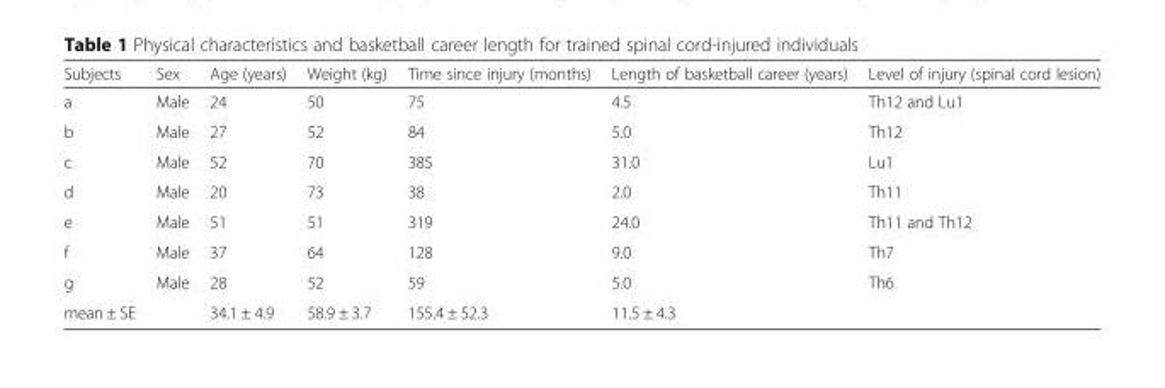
<table><thead><tr><td>Subjects</td><td>Sex</td><td>Age (years)</td><td>Weight (kg)</td><td>Time since injury (months)</td><td>Length of basketball career (years)</td><td>Level of injury (spinal cord lesion)</td></tr></thead><tbody><tr><td>a</td><td>Male</td><td>24</td><td>50</td><td>75</td><td>4.5</td><td>Th12 and Lu1</td></tr><tr><td>b</td><td>Male</td><td>27</td><td>52</td><td>84</td><td>5.0</td><td>Th12</td></tr><tr><td>c</td><td>Male</td><td>52</td><td>70</td><td>385</td><td>31.0</td><td>Lu1</td></tr><tr><td>d</td><td>Male</td><td>20</td><td>73</td><td>38</td><td>2.0</td><td>Th11</td></tr><tr><td>e</td><td>Male</td><td>51</td><td>51</td><td>319</td><td>24.0</td><td>Th11 and Th12</td></tr><tr><td>f</td><td>Male</td><td>37</td><td>64</td><td>128</td><td>9.0</td><td>Th7</td></tr><tr><td>g</td><td>Male</td><td>28</td><td>52</td><td>59</td><td>5.0</td><td>Th6</td></tr><tr><td>mean ± SE</td><td></td><td>34.1 ± 4.9</td><td>58.9 ± 3.7</td><td>155.4 ± 52.3</td><td>11.5 ± 4.3</td><td></td></tr></tbody></table>